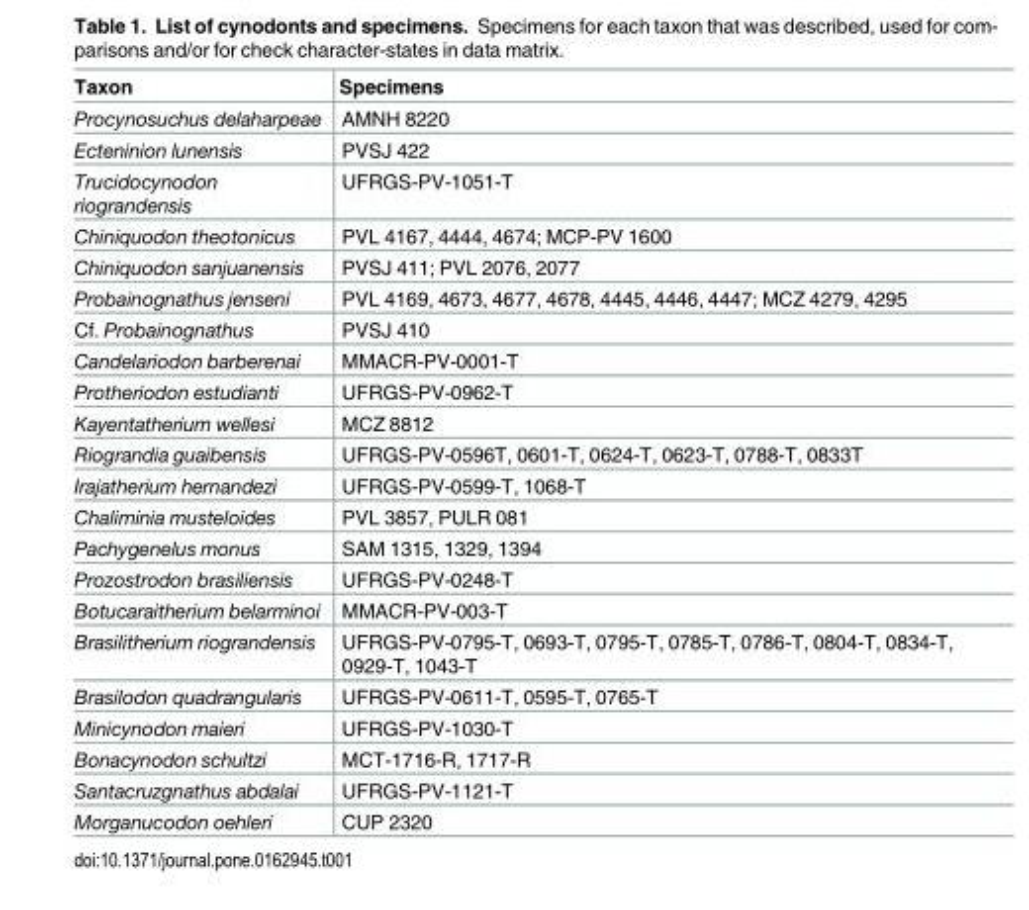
<table><thead><tr><td>Taxon</td><td>Specimens</td></tr></thead><tbody><tr><td>Procynosuchus delaharpeae</td><td>AMNH 8220</td></tr><tr><td>Ecteninion lunensis</td><td>PVSJ 422</td></tr><tr><td>Trucidocynodon riograndensis</td><td>UFRGS-PV-1051-T</td></tr><tr><td>Chiniquodon theotonicus</td><td>PVL 4167, 4444, 4674; MCP-PV 1600</td></tr><tr><td>Chiniquodon sanjuanensis</td><td>PVSJ 411; PVL 2076, 2077</td></tr><tr><td>Probainognathus jenseni</td><td>PVL 4169, 4673, 4677, 4678, 4445, 4446, 4447; MCZ 4279, 4295</td></tr><tr><td>Cf. Probainognathus</td><td>PVSJ 410</td></tr><tr><td>Candelariodon barberenai</td><td>MMACR-PV-0001-T</td></tr><tr><td>Protheriodon estudianti</td><td>UFRGS-PV-0962-T</td></tr><tr><td>Kayentatherium wellesi</td><td>MCZ 8812</td></tr><tr><td>Riograndia guaibensis</td><td>UFRGS-PV-0596T, 0601-T, 0624-T, 0623-T, 0788-T, 0833T</td></tr><tr><td>Irajatherium hernandezi</td><td>UFRGS-PV-0599-T, 1068-T</td></tr><tr><td>Chaliminia musteloides</td><td>PVL 3857, PULR 081</td></tr><tr><td>Pachygenelus monus</td><td>SAM 1315, 1329, 1394</td></tr><tr><td>Prozostrodon brasiliensis</td><td>UFRGS-PV-0248-T</td></tr><tr><td>Botucaraitherium belarminoi</td><td>MMACR-PV-003-T</td></tr><tr><td>Brasilitherium riograndensis</td><td>UFRGS-PV-0795-T, 0693-T, 0795-T, 0785-T, 0786-T, 0804-T, 0834-T, 0929-T, 1043-T</td></tr><tr><td>Brasilodon quadrangularis</td><td>UFRGS-PV-0611-T, 0595-T, 0765-T</td></tr><tr><td>Minicynodon maieri</td><td>UFRGS-PV-1030-T</td></tr><tr><td>Bonacynodon schultzi</td><td>MCT-1716-R, 1717-R</td></tr><tr><td>Santacruzgnathus abdalai</td><td>UFRGS-PV-1121-T</td></tr><tr><td>Morganucodon oehleri</td><td>CUP 2320</td></tr></tbody></table>